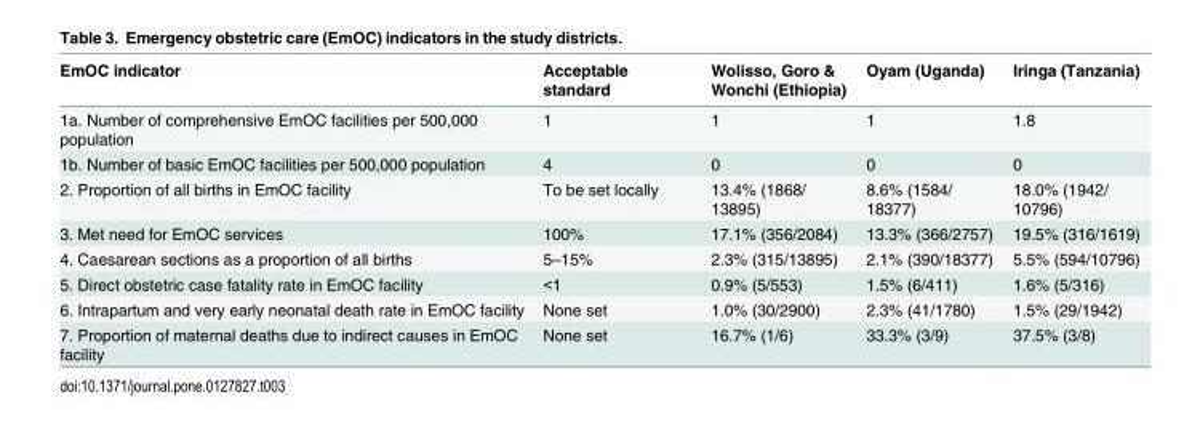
<table><thead><tr><td>EmOC indicator</td><td>Acceptable standard</td><td>Wolisso, Goro &amp; Wonchi (Ethiopia)</td><td>Oyam (Uganda)</td><td>Iringa (Tanzania)</td></tr></thead><tbody><tr><td>1a. Number of comprehensive EmOC facilities per 500,000 population</td><td>1</td><td>1</td><td>1</td><td>1.8</td></tr><tr><td>1b. Number of basic EmOC facilities per 500,000 population</td><td>4</td><td>0</td><td>0</td><td>0</td></tr><tr><td>2. Proportion of all births in EmOC facility</td><td>To be set locally</td><td>13.4% (1868/ 13895)</td><td>8.6% (1584/ 18377)</td><td>18.0% (1942/ 10796)</td></tr><tr><td>3. Met need for EmOC services</td><td>100%</td><td>17.1% (356/2084)</td><td>13.3% (366/2757)</td><td>19.5% (316/1619)</td></tr><tr><td>4. Caesarean sections as a proportion of all births</td><td>5–15%</td><td>2.3% (315/13895)</td><td>2.1% (390/18377)</td><td>5.5% (594/10796)</td></tr><tr><td>5. Direct obstetric case fatality rate in EmOC facility</td><td>&lt;1</td><td>0.9% (5/553)</td><td>1.5% (6/411)</td><td>1.6% (5/316)</td></tr><tr><td>6. Intrapartum and very early neonatal death rate in EmOC facility</td><td>None set</td><td>1.0% (30/2900)</td><td>2.3% (41/1780)</td><td>1.5% (29/1942)</td></tr><tr><td>7. Proportion of maternal deaths due to indirect causes in EmOC facility</td><td>None set</td><td>16.7% (1/6)</td><td>33.3% (3/9)</td><td>37.5% (3/8)</td></tr></tbody></table>